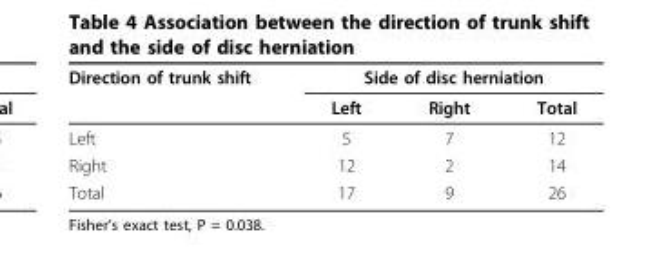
<table><thead><tr><td rowspan="2">Direction of trunk shift</td><td colspan="3">Side of disc herniation</td></tr><tr><td>Left</td><td>Right</td><td>Total</td></tr></thead><tbody><tr><td>Left</td><td>5</td><td>7</td><td>12</td></tr><tr><td>Right</td><td>12</td><td>2</td><td>14</td></tr><tr><td>Total</td><td>17</td><td>9</td><td>26</td></tr></tbody></table>